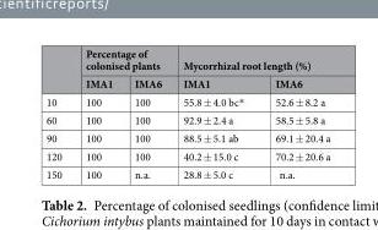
<table><thead><tr><td rowspan="2"></td><td colspan="2">Percentage of colonised plants</td><td colspan="2">Mycorrhizal root length (%)</td></tr><tr><td>IMA1</td><td>IMA6</td><td>IMA1</td><td>IMA6</td></tr></thead><tbody><tr><td>10</td><td>100</td><td>100</td><td>55.8 ± 4.0 bc*</td><td>52.6 ± 8.2 a</td></tr><tr><td>60</td><td>100</td><td>100</td><td>92.9 ± 2.4 a</td><td>58.5 ± 5.8 a</td></tr><tr><td>90</td><td>100</td><td>100</td><td>88.5 ± 5.1 ab</td><td>69.1 ± 20.4 a</td></tr><tr><td>120</td><td>100</td><td>100</td><td>40.2 ± 15.0 c</td><td>70.2 ± 20.6 a</td></tr><tr><td>150</td><td>100</td><td>n.a.</td><td>28.8 ± 5.0 c</td><td>n.a.</td></tr></tbody></table>